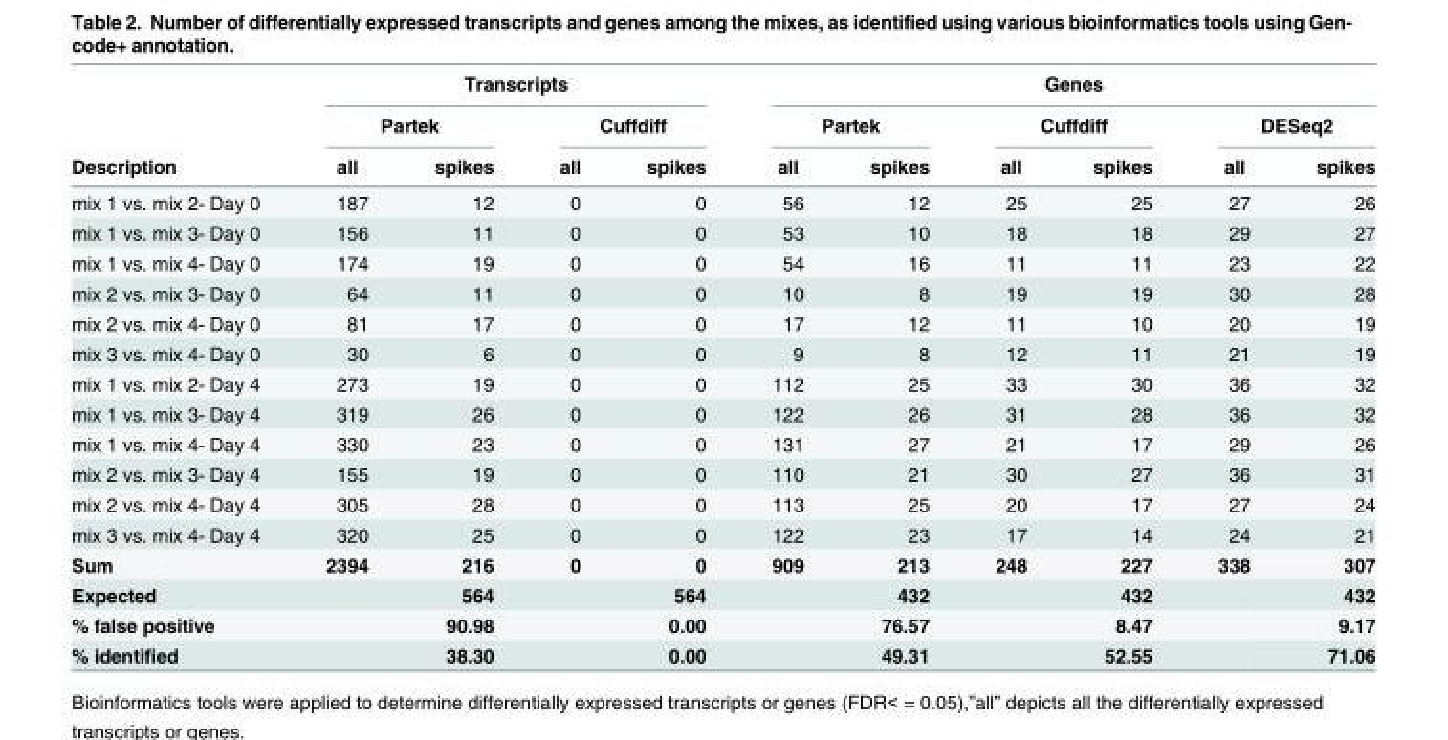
<table><thead><tr><td rowspan="3">Description</td><td colspan="4">Transcripts</td><td colspan="6">Genes</td></tr><tr><td colspan="2">Partek</td><td colspan="2">Cuffdiff</td><td colspan="2">Partek</td><td colspan="2">Cuffdiff</td><td colspan="2">DESeq2</td></tr><tr><td>all</td><td>spikes</td><td>all</td><td>spikes</td><td>all</td><td>spikes</td><td>all</td><td>spikes</td><td>all</td><td>spikes</td></tr></thead><tbody><tr><td>mix 1 vs. mix 2- Day 0</td><td>187</td><td>12</td><td>0</td><td>0</td><td>56</td><td>12</td><td>25</td><td>25</td><td>27</td><td>26</td></tr><tr><td>mix 1 vs. mix 3- Day 0</td><td>156</td><td>11</td><td>0</td><td>0</td><td>53</td><td>10</td><td>18</td><td>18</td><td>29</td><td>27</td></tr><tr><td>mix 1 vs. mix 4- Day 0</td><td>174</td><td>19</td><td>0</td><td>0</td><td>54</td><td>16</td><td>11</td><td>11</td><td>23</td><td>22</td></tr><tr><td>mix 2 vs. mix 3- Day 0</td><td>64</td><td>11</td><td>0</td><td>0</td><td>10</td><td>8</td><td>19</td><td>19</td><td>30</td><td>28</td></tr><tr><td>mix 2 vs. mix 4- Day 0</td><td>81</td><td>17</td><td>0</td><td>0</td><td>17</td><td>12</td><td>11</td><td>10</td><td>20</td><td>19</td></tr><tr><td>mix 3 vs. mix 4- Day 0</td><td>30</td><td>6</td><td>0</td><td>0</td><td>9</td><td>8</td><td>12</td><td>11</td><td>21</td><td>19</td></tr><tr><td>mix 1 vs. mix 2- Day 4</td><td>273</td><td>19</td><td>0</td><td>0</td><td>112</td><td>25</td><td>33</td><td>30</td><td>36</td><td>32</td></tr><tr><td>mix 1 vs. mix 3- Day 4</td><td>319</td><td>26</td><td>0</td><td>0</td><td>122</td><td>26</td><td>31</td><td>28</td><td>36</td><td>32</td></tr><tr><td>mix 1 vs. mix 4- Day 4</td><td>330</td><td>23</td><td>0</td><td>0</td><td>131</td><td>27</td><td>21</td><td>17</td><td>29</td><td>26</td></tr><tr><td>mix 2 vs. mix 3- Day 4</td><td>155</td><td>19</td><td>0</td><td>0</td><td>110</td><td>21</td><td>30</td><td>27</td><td>36</td><td>31</td></tr><tr><td>mix 2 vs. mix 4- Day 4</td><td>305</td><td>28</td><td>0</td><td>0</td><td>113</td><td>25</td><td>20</td><td>17</td><td>27</td><td>24</td></tr><tr><td>mix 3 vs. mix 4- Day 4</td><td>320</td><td>25</td><td>0</td><td>0</td><td>122</td><td>23</td><td>17</td><td>14</td><td>24</td><td>21</td></tr><tr><td>Sum</td><td>2394</td><td>216</td><td>0</td><td>0</td><td>909</td><td>213</td><td>248</td><td>227</td><td>338</td><td>307</td></tr><tr><td>Expected</td><td></td><td>564</td><td></td><td>564</td><td></td><td>432</td><td></td><td>432</td><td></td><td>432</td></tr><tr><td>% false positive</td><td></td><td>90.98</td><td></td><td>0.00</td><td></td><td>76.57</td><td></td><td>8.47</td><td></td><td>9.17</td></tr><tr><td>% identified</td><td></td><td>38.30</td><td></td><td>0.00</td><td></td><td>49.31</td><td></td><td>52.55</td><td></td><td>71.06</td></tr></tbody></table>